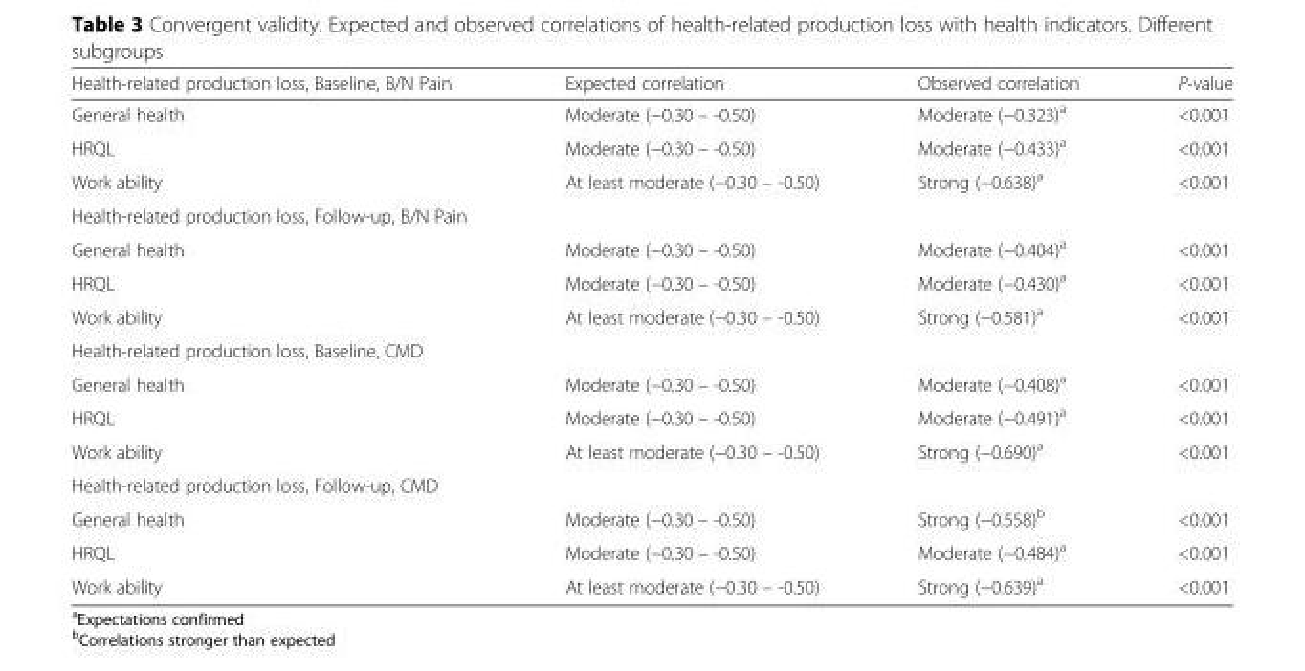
<table><thead><tr><td>Health-related production loss, Baseline, B/N Pain</td><td>Expected correlation</td><td>Observed correlation</td><td>P-value</td></tr></thead><tbody><tr><td>General health</td><td>Moderate (−0.30 – -0.50)</td><td>Moderate (−0.323)<sup>a</sup></td><td>&lt;0.001</td></tr><tr><td>HRQL</td><td>Moderate (−0.30 – -0.50)</td><td>Moderate (−0.433)<sup>a</sup></td><td>&lt;0.001</td></tr><tr><td>Work ability</td><td>At least moderate (−0.30 – -0.50)</td><td>Strong (−0.638)<sup>a</sup></td><td>&lt;0.001</td></tr><tr><td colspan="4">Health-related production loss, Follow-up, B/N Pain</td></tr><tr><td>General health</td><td>Moderate (−0.30 – -0.50)</td><td>Moderate (−0.404)<sup>a</sup></td><td>&lt;0.001</td></tr><tr><td>HRQL</td><td>Moderate (−0.30 – -0.50)</td><td>Moderate (−0.430)<sup>a</sup></td><td>&lt;0.001</td></tr><tr><td>Work ability</td><td>At least moderate (−0.30 – -0.50)</td><td>Strong (−0.581)<sup>a</sup></td><td>&lt;0.001</td></tr><tr><td colspan="4">Health-related production loss, Baseline, CMD</td></tr><tr><td>General health</td><td>Moderate (−0.30 – -0.50)</td><td>Moderate (−0.408)<sup>a</sup></td><td>&lt;0.001</td></tr><tr><td>HRQL</td><td>Moderate (−0.30 – -0.50)</td><td>Moderate (−0.491)<sup>a</sup></td><td>&lt;0.001</td></tr><tr><td>Work ability</td><td>At least moderate (−0.30 – -0.50)</td><td>Strong (−0.690)<sup>a</sup></td><td>&lt;0.001</td></tr><tr><td colspan="4">Health-related production loss, Follow-up, CMD</td></tr><tr><td>General health</td><td>Moderate (−0.30 – -0.50)</td><td>Strong (−0.558)<sup>b</sup></td><td>&lt;0.001</td></tr><tr><td>HRQL</td><td>Moderate (−0.30 – -0.50)</td><td>Moderate (−0.484)<sup>a</sup></td><td>&lt;0.001</td></tr><tr><td>Work ability</td><td>At least moderate (−0.30 – -0.50)</td><td>Strong (−0.639)<sup>a</sup></td><td>&lt;0.001</td></tr></tbody></table>